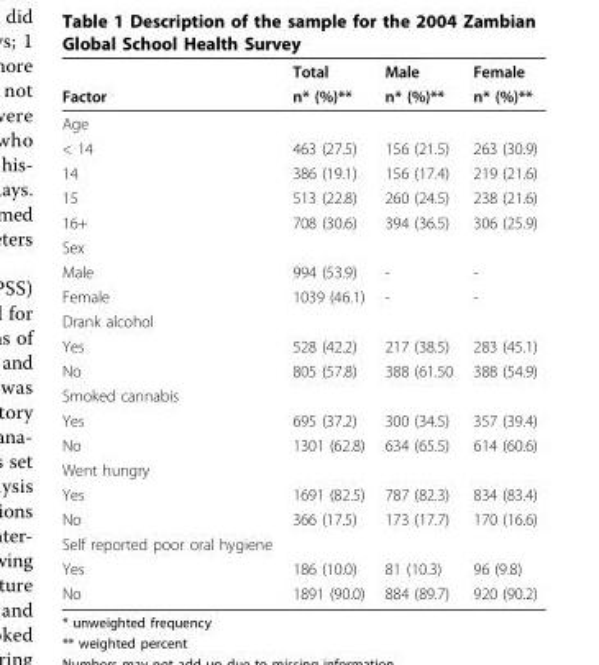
<table><thead><tr><td rowspan="2">Factor</td><td rowspan="2">Total n* (%)**</td><td rowspan="2">Male n* (%)**</td><td rowspan="2">Female n* (%)**</td></tr><tr></tr></thead><tbody><tr><td colspan="4">Age</td></tr><tr><td>&lt; 14</td><td>463 (27.5)</td><td>156 (21.5)</td><td>263 (30.9)</td></tr><tr><td>14</td><td>386 (19.1)</td><td>156 (17.4)</td><td>219 (21.6)</td></tr><tr><td>15</td><td>513 (22.8)</td><td>260 (24.5)</td><td>238 (21.6)</td></tr><tr><td>16+</td><td>708 (30.6)</td><td>394 (36.5)</td><td>306 (25.9)</td></tr><tr><td colspan="4">Sex</td></tr><tr><td>Male</td><td>994 (53.9)</td><td>-</td><td>-</td></tr><tr><td>Female</td><td>1039 (46.1)</td><td>-</td><td>-</td></tr><tr><td colspan="4">Drank alcohol</td></tr><tr><td>Yes</td><td>528 (42.2)</td><td>217 (38.5)</td><td>283 (45.1)</td></tr><tr><td>No</td><td>805 (57.8)</td><td>388 (61.50</td><td>388 (54.9)</td></tr><tr><td colspan="4">Smoked cannabis</td></tr><tr><td>Yes</td><td>695 (37.2)</td><td>300 (34.5)</td><td>357 (39.4)</td></tr><tr><td>No</td><td>1301 (62.8)</td><td>634 (65.5)</td><td>614 (60.6)</td></tr><tr><td colspan="4">Went hungry</td></tr><tr><td>Yes</td><td>1691 (82.5)</td><td>787 (82.3)</td><td>834 (83.4)</td></tr><tr><td>No</td><td>366 (17.5)</td><td>173 (17.7)</td><td>170 (16.6)</td></tr><tr><td colspan="4">Self reported poor oral hygiene</td></tr><tr><td>Yes</td><td>186 (10.0)</td><td>81 (10.3)</td><td>96 (9.8)</td></tr><tr><td>No</td><td>1891 (90.0)</td><td>884 (89.7)</td><td>920 (90.2)</td></tr></tbody></table>